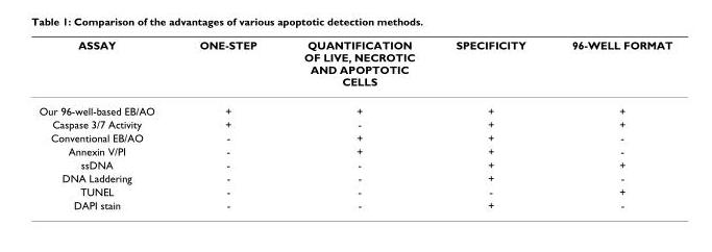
<table><thead><tr><td>ASSAY</td><td>ONE-STEP</td><td>QUANTIFICATION OF LIVE, NECROTIC AND APOPTOTIC CELLS</td><td>SPECIFICITY</td><td>96-WELL FORMAT</td></tr></thead><tbody><tr><td>Our 96-well-based EB/AO</td><td>+</td><td>+</td><td>+</td><td>+</td></tr><tr><td>Caspase 3/7 Activity</td><td>+</td><td>-</td><td>+</td><td>+</td></tr><tr><td>Conventional EB/AO</td><td>-</td><td>+</td><td>+</td><td>-</td></tr><tr><td>Annexin V/PI</td><td>-</td><td>+</td><td>+</td><td>-</td></tr><tr><td>ssDNA</td><td>-</td><td>-</td><td>+</td><td>+</td></tr><tr><td>DNA Laddering</td><td>-</td><td>-</td><td>+</td><td>-</td></tr><tr><td>TUNEL</td><td>-</td><td>-</td><td>-</td><td>+</td></tr><tr><td>DAPI stain</td><td>-</td><td>-</td><td>+</td><td>-</td></tr></tbody></table>